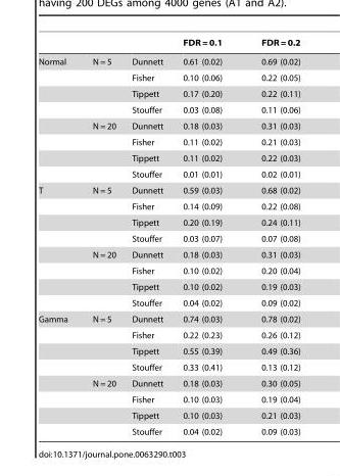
<table><thead><tr><td></td><td></td><td></td><td>FDR = 0.1</td><td>FDR = 0.2</td></tr></thead><tbody><tr><td rowspan="8">Normal</td><td>N = 5</td><td>Dunnett</td><td>0.61 (0.02)</td><td>0.69 (0.02)</td></tr><tr><td></td><td>Fisher</td><td>0.10 (0.06)</td><td>0.22 (0.05)</td></tr><tr><td></td><td>Tippett</td><td>0.17 (0.20)</td><td>0.22 (0.11)</td></tr><tr><td></td><td>Stouffer</td><td>0.03 (0.08)</td><td>0.11 (0.06)</td></tr><tr><td>N = 20</td><td>Dunnett</td><td>0.18 (0.03)</td><td>0.31 (0.03)</td></tr><tr><td></td><td>Fisher</td><td>0.11 (0.02)</td><td>0.21 (0.03)</td></tr><tr><td></td><td>Tippett</td><td>0.11 (0.02)</td><td>0.22 (0.03)</td></tr><tr><td></td><td>Stouffer</td><td>0.01 (0.01)</td><td>0.02 (0.01)</td></tr><tr><td rowspan="8">T</td><td>N = 5</td><td>Dunnett</td><td>0.59 (0.03)</td><td>0.68 (0.02)</td></tr><tr><td></td><td>Fisher</td><td>0.14 (0.09)</td><td>0.22 (0.08)</td></tr><tr><td></td><td>Tippett</td><td>0.20 (0.19)</td><td>0.24 (0.11)</td></tr><tr><td></td><td>Stouffer</td><td>0.03 (0.07)</td><td>0.07 (0.08)</td></tr><tr><td>N = 20</td><td>Dunnett</td><td>0.18 (0.03)</td><td>0.31 (0.03)</td></tr><tr><td></td><td>Fisher</td><td>0.10 (0.02)</td><td>0.20 (0.04)</td></tr><tr><td></td><td>Tippett</td><td>0.10 (0.02)</td><td>0.19 (0.03)</td></tr><tr><td></td><td>Stouffer</td><td>0.04 (0.02)</td><td>0.09 (0.02)</td></tr><tr><td rowspan="8">Gamma</td><td>N = 5</td><td>Dunnett</td><td>0.74 (0.03)</td><td>0.78 (0.02)</td></tr><tr><td></td><td>Fisher</td><td>0.22 (0.23)</td><td>0.26 (0.12)</td></tr><tr><td></td><td>Tippett</td><td>0.55 (0.39)</td><td>0.49 (0.36)</td></tr><tr><td></td><td>Stouffer</td><td>0.33 (0.41)</td><td>0.13 (0.12)</td></tr><tr><td>N = 20</td><td>Dunnett</td><td>0.18 (0.03)</td><td>0.30 (0.05)</td></tr><tr><td></td><td>Fisher</td><td>0.10 (0.03)</td><td>0.19 (0.04)</td></tr><tr><td></td><td>Tippett</td><td>0.10 (0.03)</td><td>0.21 (0.03)</td></tr><tr><td></td><td>Stouffer</td><td>0.04 (0.02)</td><td>0.09 (0.03)</td></tr></tbody></table>